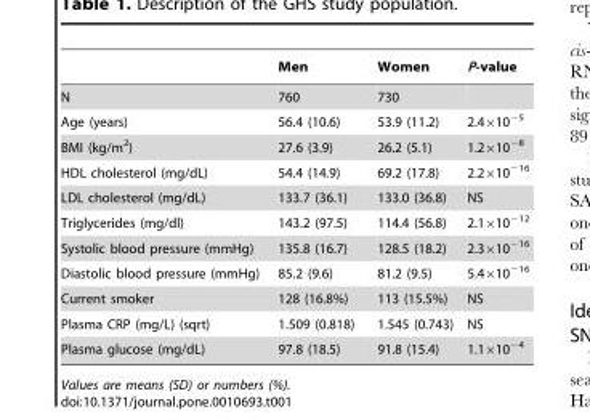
<table><thead><tr><td></td><td>Men</td><td>Women</td><td>P-value</td></tr></thead><tbody><tr><td>N</td><td>760</td><td>730</td><td></td></tr><tr><td>Age (years)</td><td>56.4 (10.6)</td><td>53.9 (11.2)</td><td>2.4×10<sup>−5</sup></td></tr><tr><td>BMI (kg/m<sup>2</sup>)</td><td>27.6 (3.9)</td><td>26.2 (5.1)</td><td>1.2×10<sup>−8</sup></td></tr><tr><td>HDL cholesterol (mg/dL)</td><td>54.4 (14.9)</td><td>69.2 (17.8)</td><td>2.2×10<sup>−16</sup></td></tr><tr><td>LDL cholesterol (mg/dL)</td><td>133.7 (36.1)</td><td>133.0 (36.8)</td><td>NS</td></tr><tr><td>Triglycerides (mg/dl)</td><td>143.2 (97.5)</td><td>114.4 (56.8)</td><td>2.1×10<sup>−12</sup></td></tr><tr><td>Systolic blood pressure (mmHg)</td><td>135.8 (16.7)</td><td>128.5 (18.2)</td><td>2.3×10<sup>−16</sup></td></tr><tr><td>Diastolic blood pressure (mmHg)</td><td>85.2 (9.6)</td><td>81.2 (9.5)</td><td>5.4×10<sup>−16</sup></td></tr><tr><td>Current smoker</td><td>128 (16.8%)</td><td>113 (15.5%)</td><td>NS</td></tr><tr><td>Plasma CRP (mg/L) (sqrt)</td><td>1.509 (0.818)</td><td>1.545 (0.743)</td><td>NS</td></tr><tr><td>Plasma glucose (mg/dL)</td><td>97.8 (18.5)</td><td>91.8 (15.4)</td><td>1.1×10<sup>−4</sup></td></tr></tbody></table>